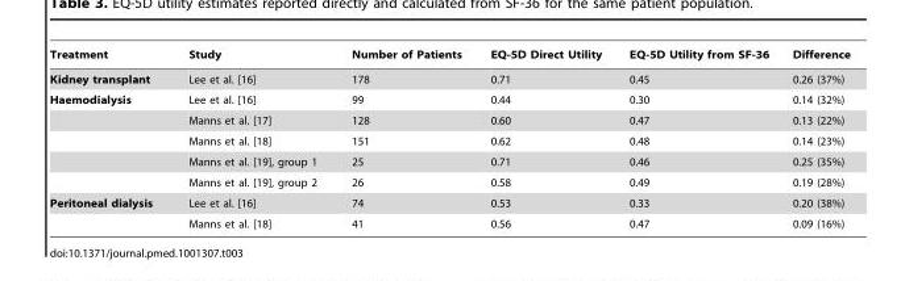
<table><thead><tr><td>Treatment</td><td>Study</td><td>Number of Patients</td><td>EQ-5D Direct Utility</td><td>EQ-5D Utility from SF-36</td><td>Difference</td></tr></thead><tbody><tr><td>Kidney transplant</td><td>Lee et al. [16]</td><td>178</td><td>0.71</td><td>0.45</td><td>0.26 (37%)</td></tr><tr><td rowspan="5">Haemodialysis</td><td>Lee et al. [16]</td><td>99</td><td>0.44</td><td>0.30</td><td>0.14 (32%)</td></tr><tr><td>Manns et al. [17]</td><td>128</td><td>0.60</td><td>0.47</td><td>0.13 (22%)</td></tr><tr><td>Manns et al. [18]</td><td>151</td><td>0.62</td><td>0.48</td><td>0.14 (23%)</td></tr><tr><td>Manns et al. [19], group 1</td><td>25</td><td>0.71</td><td>0.46</td><td>0.25 (35%)</td></tr><tr><td>Manns et al. [19], group 2</td><td>26</td><td>0.58</td><td>0.49</td><td>0.19 (28%)</td></tr><tr><td rowspan="2">Peritoneal dialysis</td><td>Lee et al. [16]</td><td>74</td><td>0.53</td><td>0.33</td><td>0.20 (38%)</td></tr><tr><td>Manns et al. [18]</td><td>41</td><td>0.56</td><td>0.47</td><td>0.09 (16%)</td></tr></tbody></table>